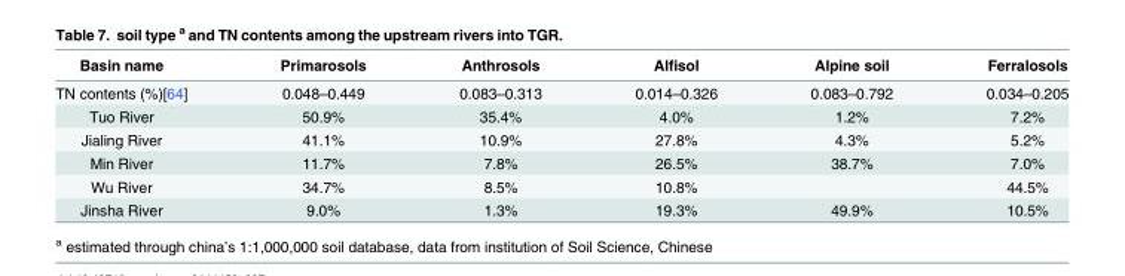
<table><thead><tr><td>Basin name</td><td>Primarosols</td><td>Anthrosols</td><td>Alfisol</td><td>Alpine soil</td><td>Ferralosols</td></tr></thead><tbody><tr><td>TN contents (%)[64]</td><td>0.048–0.449</td><td>0.083–0.313</td><td>0.014–0.326</td><td>0.083–0.792</td><td>0.034–0.205</td></tr><tr><td>Tuo River</td><td>50.9%</td><td>35.4%</td><td>4.0%</td><td>1.2%</td><td>7.2%</td></tr><tr><td>Jialing River</td><td>41.1%</td><td>10.9%</td><td>27.8%</td><td>4.3%</td><td>5.2%</td></tr><tr><td>Min River</td><td>11.7%</td><td>7.8%</td><td>26.5%</td><td>38.7%</td><td>7.0%</td></tr><tr><td>Wu River</td><td>34.7%</td><td>8.5%</td><td>10.8%</td><td></td><td>44.5%</td></tr><tr><td>Jinsha River</td><td>9.0%</td><td>1.3%</td><td>19.3%</td><td>49.9%</td><td>10.5%</td></tr></tbody></table>